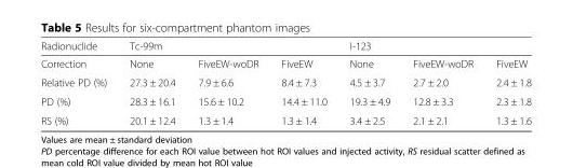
<table><thead><tr><td rowspan="2">Radionuclide Correction</td><td colspan="3">Tc-99m</td><td colspan="3">I-123</td></tr><tr><td>None</td><td>FiveEW-woDR</td><td>FiveEW</td><td>None</td><td>FiveEW-woDR</td><td>FiveEW</td></tr></thead><tbody><tr><td>Relative PD (%)</td><td>27.3 ± 20.4</td><td>7.9 ± 6.6</td><td>8.4 ± 7.3</td><td>4.5 ± 3.7</td><td>2.7 ± 2.0</td><td>2.4 ± 1.8</td></tr><tr><td>PD (%)</td><td>28.3 ± 16.1</td><td>15.6 ± 10.2</td><td>14.4 ± 11.0</td><td>19.3 ± 4.9</td><td>12.8 ± 3.3</td><td>2.3 ± 1.8</td></tr><tr><td>RS (%)</td><td>20.1 ± 12.4</td><td>1.3 ± 1.4</td><td>1.3 ± 1.4</td><td>3.4 ± 2.5</td><td>2.1 ± 2.1</td><td>1.3 ± 1.6</td></tr></tbody></table>